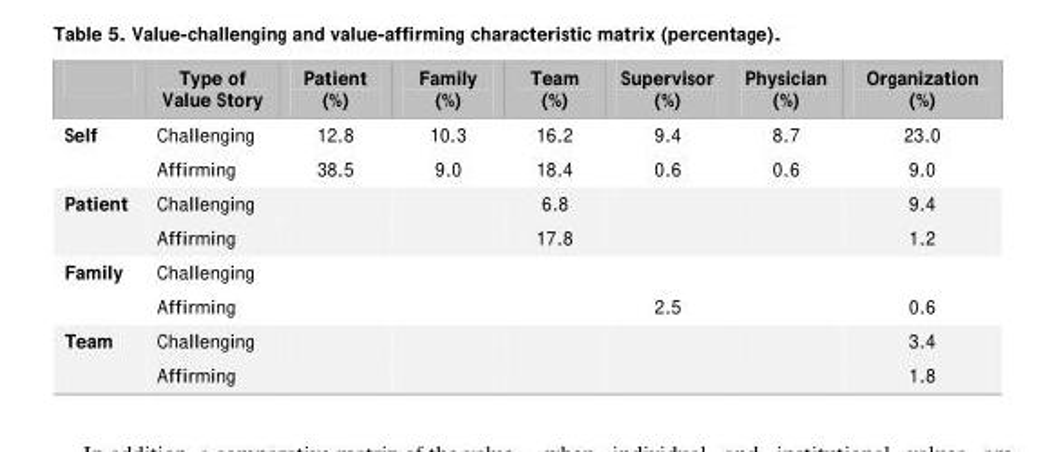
<table><thead><tr><td></td><td>Type of Value Story</td><td>Patient (%)</td><td>Family (%)</td><td>Team (%)</td><td>Supervisor (%)</td><td>Physician (%)</td><td>Organization (%)</td></tr></thead><tbody><tr><td rowspan="2">Self</td><td>Challenging</td><td>12.8</td><td>10.3</td><td>16.2</td><td>9.4</td><td>8.7</td><td>23.0</td></tr><tr><td>Affirming</td><td>38.5</td><td>9.0</td><td>18.4</td><td>0.6</td><td>0.6</td><td>9.0</td></tr><tr><td rowspan="2">Patient</td><td>Challenging</td><td></td><td></td><td>6.8</td><td></td><td></td><td>9.4</td></tr><tr><td>Affirming</td><td></td><td></td><td>17.8</td><td></td><td></td><td>1.2</td></tr><tr><td rowspan="2">Family</td><td>Challenging</td><td></td><td></td><td></td><td></td><td></td><td></td></tr><tr><td>Affirming</td><td></td><td></td><td></td><td>2.5</td><td></td><td>0.6</td></tr><tr><td rowspan="2">Team</td><td>Challenging</td><td></td><td></td><td></td><td></td><td></td><td>3.4</td></tr><tr><td>Affirming</td><td></td><td></td><td></td><td></td><td></td><td>1.8</td></tr></tbody></table>